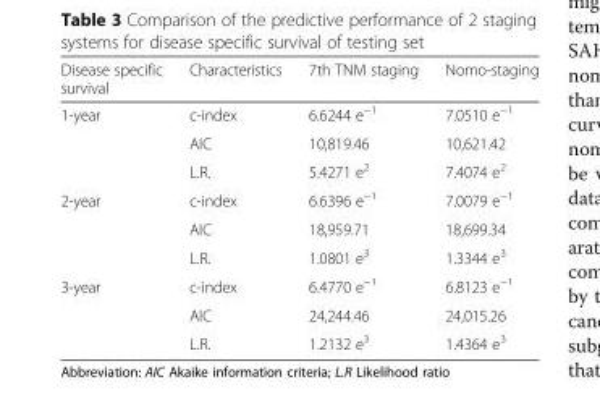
<table><thead><tr><td>Disease specific survival</td><td>Characteristics</td><td>7th TNM staging</td><td>Nomo-staging</td></tr></thead><tbody><tr><td rowspan="3">1-year</td><td>c-index</td><td>6.6244 e<sup>−1</sup></td><td>7.0510 e<sup>−1</sup></td></tr><tr><td>AIC</td><td>10,819.46</td><td>10,621.42</td></tr><tr><td>L.R.</td><td>5.4271 e<sup>2</sup></td><td>7.4074 e<sup>2</sup></td></tr><tr><td rowspan="3">2-year</td><td>c-index</td><td>6.6396 e<sup>−1</sup></td><td>7.0079 e<sup>−1</sup></td></tr><tr><td>AIC</td><td>18,959.71</td><td>18,699.34</td></tr><tr><td>L.R.</td><td>1.0801 e<sup>3</sup></td><td>1.3344 e<sup>3</sup></td></tr><tr><td rowspan="3">3-year</td><td>c-index</td><td>6.4770 e<sup>−1</sup></td><td>6.8123 e<sup>−1</sup></td></tr><tr><td>AIC</td><td>24,244.46</td><td>24,015.26</td></tr><tr><td>L.R.</td><td>1.2132 e<sup>3</sup></td><td>1.4364 e<sup>3</sup></td></tr></tbody></table>